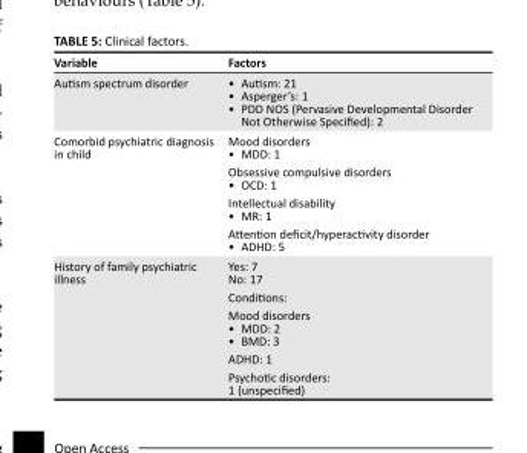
<table><thead><tr><td>Variable</td><td>Factors</td></tr></thead><tbody><tr><td>Autism spectrum disorder</td><td>• Autism: 21 • Asperger’s: 1 • PDD NOS (Pervasive Developmental Disorder Not Otherwise Specified): 2</td></tr><tr><td>Comorbid psychiatric diagnosis in child</td><td>Mood disorders • MDD: 1 Obsessive compulsive disorders • OCD: 1 Intellectual disability • MR: 1 Attention deficit/hyperactivity disorder • ADHD: 5</td></tr><tr><td>History of family psychiatric illness</td><td>Yes: 7 No: 17 Conditions: Mood disorders • MDD: 2 • BMD: 3 ADHD: 1 Psychotic disorders: 1 (unspecified)</td></tr></tbody></table>